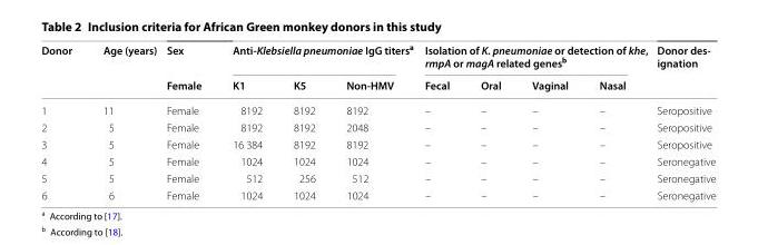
<table><thead><tr><td rowspan="2">Donor</td><td rowspan="2">Age (years)</td><td rowspan="2">Sex Female</td><td colspan="3">Anti‑Klebsiella pneumoniae IgG titers<sup>a</sup></td><td colspan="4">Isolation of K. pneumoniae or detection of khe, rmpA or magA related genes<sup>b</sup></td><td rowspan="2">Donor des‑ ignation</td></tr><tr><td>K1</td><td>K5</td><td>Non‑HMV</td><td>Fecal</td><td>Oral</td><td>Vaginal</td><td>Nasal</td></tr></thead><tbody><tr><td>1</td><td>11</td><td>Female</td><td>8192</td><td>8192</td><td>8192</td><td>–</td><td>–</td><td>–</td><td>–</td><td>Seropositive</td></tr><tr><td>2</td><td>5</td><td>Female</td><td>8192</td><td>8192</td><td>2048</td><td>–</td><td>–</td><td>–</td><td>–</td><td>Seropositive</td></tr><tr><td>3</td><td>5</td><td>Female</td><td>16 384</td><td>8192</td><td>8192</td><td>–</td><td>–</td><td>–</td><td>–</td><td>Seropositive</td></tr><tr><td>4</td><td>5</td><td>Female</td><td>1024</td><td>1024</td><td>1024</td><td>–</td><td>–</td><td>–</td><td>–</td><td>Seronegative</td></tr><tr><td>5</td><td>5</td><td>Female</td><td>512</td><td>256</td><td>512</td><td>–</td><td>–</td><td>–</td><td>–</td><td>Seronegative</td></tr><tr><td>6</td><td>6</td><td>Female</td><td>1024</td><td>1024</td><td>1024</td><td>–</td><td>–</td><td>–</td><td>–</td><td>Seronegative</td></tr></tbody></table>